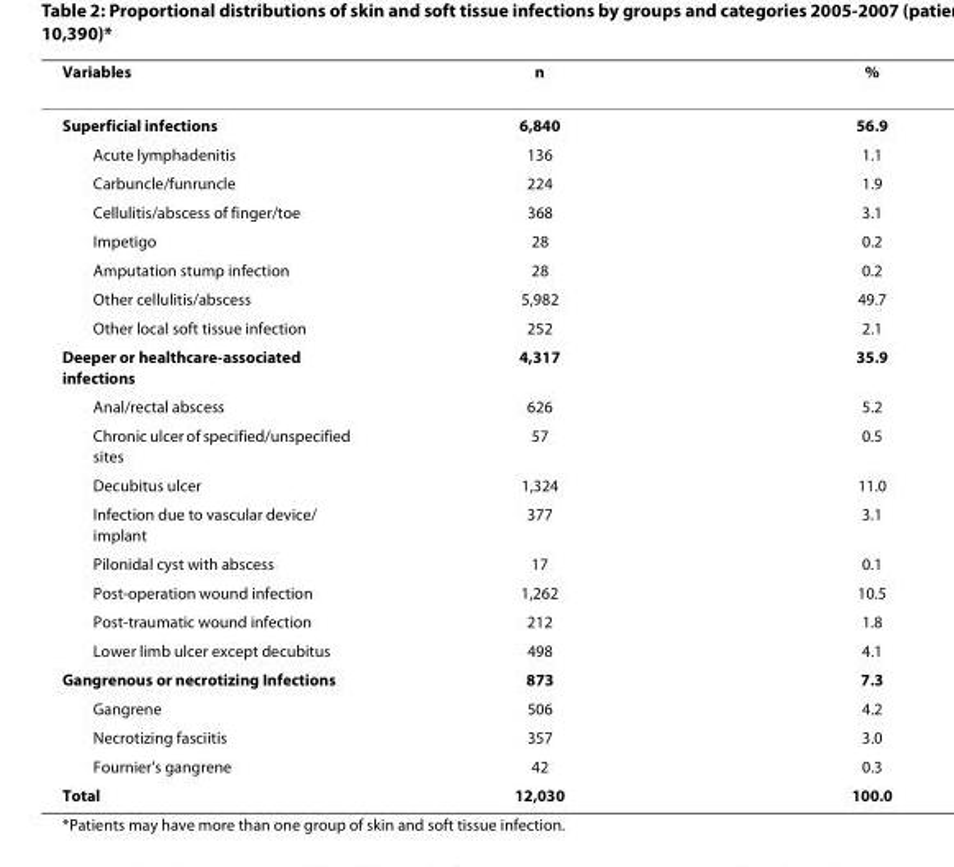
<table><thead><tr><td>Variables</td><td>n</td><td>%</td></tr></thead><tbody><tr><td>Superficial infections</td><td>6,840</td><td>56.9</td></tr><tr><td>Acute lymphadenitis</td><td>136</td><td>1.1</td></tr><tr><td>Carbuncle/funruncle</td><td>224</td><td>1.9</td></tr><tr><td>Cellulitis/abscess of finger/toe</td><td>368</td><td>3.1</td></tr><tr><td>Impetigo</td><td>28</td><td>0.2</td></tr><tr><td>Amputation stump infection</td><td>28</td><td>0.2</td></tr><tr><td>Other cellulitis/abscess</td><td>5,982</td><td>49.7</td></tr><tr><td>Other local soft tissue infection</td><td>252</td><td>2.1</td></tr><tr><td>Deeper or healthcare-associated infections</td><td>4,317</td><td>35.9</td></tr><tr><td>Anal/rectal abscess</td><td>626</td><td>5.2</td></tr><tr><td>Chronic ulcer of specified/unspecified sites</td><td>57</td><td>0.5</td></tr><tr><td>Decubitus ulcer</td><td>1,324</td><td>11.0</td></tr><tr><td>Infection due to vascular device/ implant</td><td>377</td><td>3.1</td></tr><tr><td>Pilonidal cyst with abscess</td><td>17</td><td>0.1</td></tr><tr><td>Post-operation wound infection</td><td>1,262</td><td>10.5</td></tr><tr><td>Post-traumatic wound infection</td><td>212</td><td>1.8</td></tr><tr><td>Lower limb ulcer except decubitus</td><td>498</td><td>4.1</td></tr><tr><td>Gangrenous or necrotizing Infections</td><td>873</td><td>7.3</td></tr><tr><td>Gangrene</td><td>506</td><td>4.2</td></tr><tr><td>Necrotizing fasciitis</td><td>357</td><td>3.0</td></tr><tr><td>Fournier&#x27;s gangrene</td><td>42</td><td>0.3</td></tr><tr><td>Total</td><td>12,030</td><td>100.0</td></tr></tbody></table>